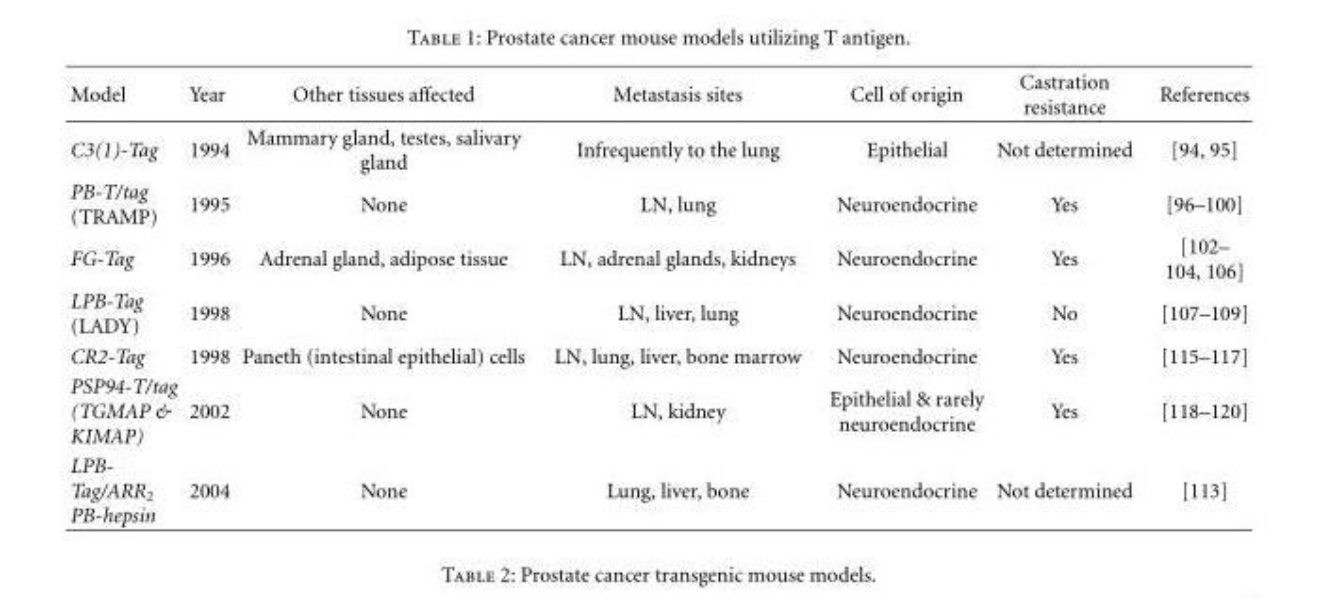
<table><thead><tr><td>Model</td><td>Year</td><td>Other tissues affected</td><td>Metastasis sites</td><td>Cell of origin</td><td>Castration resistance</td><td>References</td></tr></thead><tbody><tr><td>C3(1)-Tag</td><td>1994</td><td>Mammary gland, testes, salivary gland</td><td>Infrequently to the lung</td><td>Epithelial</td><td>Not determined</td><td>[94, 95]</td></tr><tr><td>PB-T/tag (TRAMP)</td><td>1995</td><td>None</td><td>LN, lung</td><td>Neuroendocrine</td><td>Yes</td><td>[96–100]</td></tr><tr><td>FG-Tag</td><td>1996</td><td>Adrenal gland, adipose tissue</td><td>LN, adrenal glands, kidneys</td><td>Neuroendocrine</td><td>Yes</td><td>[102– 104, 106]</td></tr><tr><td>LPB-Tag (LADY)</td><td>1998</td><td>None</td><td>LN, liver, lung</td><td>Neuroendocrine</td><td>No</td><td>[107–109]</td></tr><tr><td>CR2-Tag</td><td>1998</td><td>Paneth (intestinal epithelial) cells</td><td>LN, lung, liver, bone marrow</td><td>Neuroendocrine</td><td>Yes</td><td>[115–117]</td></tr><tr><td>PSP94-T/tag (TGMAP &amp; KIMAP)</td><td>2002</td><td>None</td><td>LN, kidney</td><td>Epithelial &amp; rarely neuroendocrine</td><td>Yes</td><td>[118–120]</td></tr><tr><td>LPB- Tag/ARR<sub>2</sub> PB-hepsin</td><td>2004</td><td>None</td><td>Lung, liver, bone</td><td>Neuroendocrine</td><td>Not determined</td><td>[113]</td></tr></tbody></table>